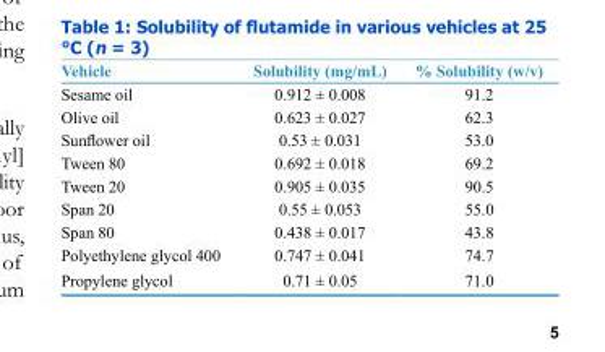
<table><thead><tr><td>Vehicle</td><td>Solubility (mg/mL)</td><td>% Solubility (w/v)</td></tr></thead><tbody><tr><td>Sesame oil</td><td>0.912 ± 0.008</td><td>91.2</td></tr><tr><td>Olive oil</td><td>0.623 ± 0.027</td><td>62.3</td></tr><tr><td>Sunflower oil</td><td>0.53 ± 0.031</td><td>53.0</td></tr><tr><td>Tween 80</td><td>0.692 ± 0.018</td><td>69.2</td></tr><tr><td>Tween 20</td><td>0.905 ± 0.035</td><td>90.5</td></tr><tr><td>Span 20</td><td>0.55 ± 0.053</td><td>55.0</td></tr><tr><td>Span 80</td><td>0.438 ± 0.017</td><td>43.8</td></tr><tr><td>Polyethylene glycol 400</td><td>0.747 ± 0.041</td><td>74.7</td></tr><tr><td>Propylene glycol</td><td>0.71 ± 0.05</td><td>71.0</td></tr></tbody></table>